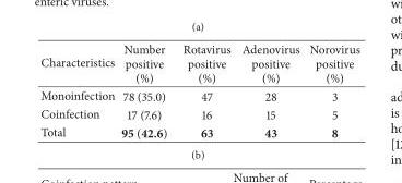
<table><thead><tr><td>Characteristics</td><td>Number positive (%)</td><td>Rotavirus positive (%)</td><td>Adenovirus positive (%)</td><td>Norovirus positive (%)</td></tr></thead><tbody><tr><td>Monoinfection</td><td>78 (35.0)</td><td>47</td><td>28</td><td>3</td></tr><tr><td>Coinfection</td><td>17 (7.6)</td><td>16</td><td>15</td><td>5</td></tr><tr><td>Total</td><td>95 (42.6)</td><td>63</td><td>43</td><td>8</td></tr></tbody></table>